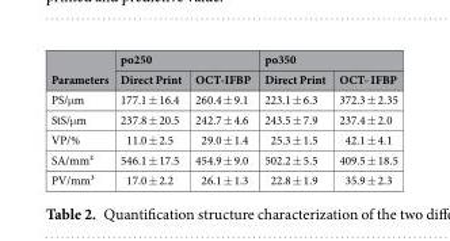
<table><thead><tr><td rowspan="2">Parameters</td><td colspan="2">po250</td><td colspan="2">po350</td></tr><tr><td>Direct Print</td><td>OCT-IFBP</td><td>Direct Print</td><td>OCT- IFBP</td></tr></thead><tbody><tr><td>PS/μm</td><td>177.1 ± 16.4</td><td>260.4 ± 9.1</td><td>223.1 ± 6.3</td><td>372.3 ± 2.35</td></tr><tr><td>StS/μm</td><td>237.8 ± 20.5</td><td>242.7 ± 4.6</td><td>243.5 ± 7.9</td><td>237.4 ± 2.0</td></tr><tr><td>VP/%</td><td>11.0 ± 2.5</td><td>29.0 ± 1.4</td><td>25.3 ± 1.5</td><td>42.1 ± 4.1</td></tr><tr><td>SA/mm²</td><td>546.1 ± 17.5</td><td>454.9 ± 9.0</td><td>502.2 ± 5.5</td><td>409.5 ± 18.5</td></tr><tr><td>PV/mm³</td><td>17.0 ± 2.2</td><td>26.1 ± 1.3</td><td>22.8 ± 1.9</td><td>35.9 ± 2.3</td></tr></tbody></table>